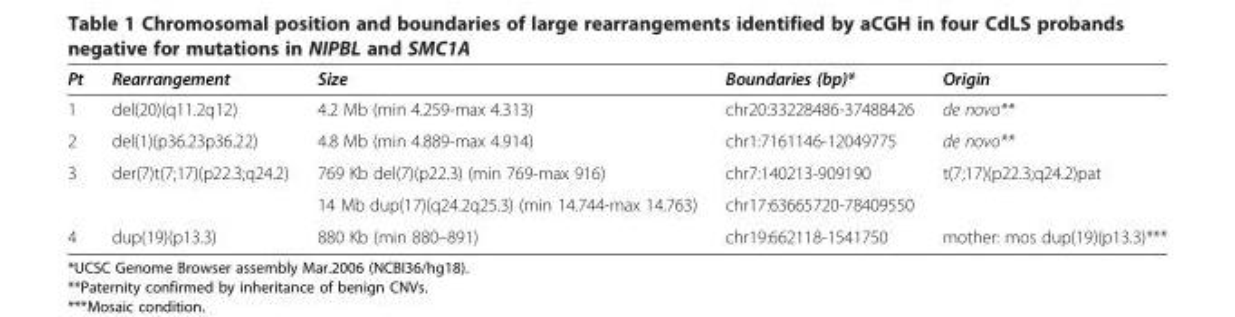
<table><thead><tr><td>Pt</td><td>Rearrangement</td><td>Size</td><td>Boundaries (bp)*</td><td>Origin</td></tr></thead><tbody><tr><td>1</td><td>del(20)(q11.2q12)</td><td>4.2 Mb (min 4.259-max 4.313)</td><td>chr20:33228486-37488426</td><td>de novo**</td></tr><tr><td>2</td><td>del(1)(p36.23p36.22)</td><td>4.8 Mb (min 4.889-max 4.914)</td><td>chr1:7161146-12049775</td><td>de novo**</td></tr><tr><td rowspan="2">3</td><td>der(7)t(7;17)(p22.3;q24.2)</td><td>769 Kb del(7)(p22.3) (min 769-max 916)</td><td>chr7:140213-909190</td><td rowspan="2">t(7;17)(p22.3;q24.2)pat</td></tr><tr><td></td><td>14 Mb dup(17)(q24.2q25.3) (min 14.744-max 14.763)</td><td>chr17:63665720-78409550</td></tr><tr><td>4</td><td>dup(19)(p13.3)</td><td>880 Kb (min 880–891)</td><td>chr19:662118-1541750</td><td>mother: mos dup(19)(p13.3)***</td></tr></tbody></table>